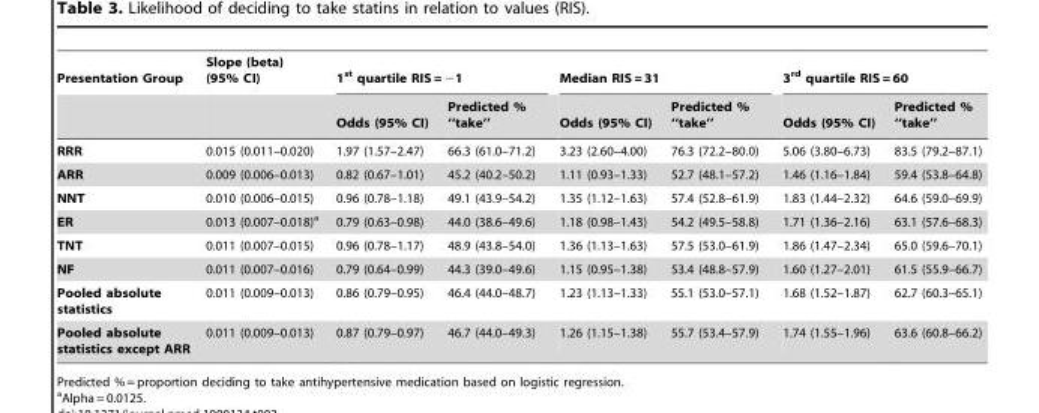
<table><thead><tr><td rowspan="2">Presentation Group</td><td rowspan="2">Slope (beta) (95% CI)</td><td colspan="2">1<sup>st</sup> quartile RIS = −1</td><td colspan="2">Median RIS = 31</td><td colspan="2">3<sup>rd</sup> quartile RIS = 60</td></tr><tr><td>Odds (95% CI)</td><td>Predicted % ‘‘take’’</td><td>Odds (95% CI)</td><td>Predicted % ‘‘take’’</td><td>Odds (95% CI)</td><td>Predicted % ‘‘take’’</td></tr></thead><tbody><tr><td>RRR</td><td>0.015 (0.011–0.020)</td><td>1.97 (1.57–2.47)</td><td>66.3 (61.0–71.2)</td><td>3.23 (2.60–4.00)</td><td>76.3 (72.2–80.0)</td><td>5.06 (3.80–6.73)</td><td>83.5 (79.2–87.1)</td></tr><tr><td>ARR</td><td>0.009 (0.006–0.013)</td><td>0.82 (0.67–1.01)</td><td>45.2 (40.2–50.2)</td><td>1.11 (0.93–1.33)</td><td>52.7 (48.1–57.2)</td><td>1.46 (1.16–1.84)</td><td>59.4 (53.8–64.8)</td></tr><tr><td>NNT</td><td>0.010 (0.006–0.015)</td><td>0.96 (0.78–1.18)</td><td>49.1 (43.9–54.2)</td><td>1.35 (1.12–1.63)</td><td>57.4 (52.8–61.9)</td><td>1.83 (1.44–2.32)</td><td>64.6 (59.0–69.9)</td></tr><tr><td>ER</td><td>0.013 (0.007–0.018)<sup>a</sup></td><td>0.79 (0.63–0.98)</td><td>44.0 (38.6–49.6)</td><td>1.18 (0.98–1.43)</td><td>54.2 (49.5–58.8)</td><td>1.71 (1.36–2.16)</td><td>63.1 (57.6–68.3)</td></tr><tr><td>TNT</td><td>0.011 (0.007–0.015)</td><td>0.96 (0.78–1.17)</td><td>48.9 (43.8–54.0)</td><td>1.36 (1.13–1.63)</td><td>57.5 (53.0–61.9)</td><td>1.86 (1.47–2.34)</td><td>65.0 (59.6–70.1)</td></tr><tr><td>NF</td><td>0.011 (0.007–0.016)</td><td>0.79 (0.64–0.99)</td><td>44.3 (39.0–49.6)</td><td>1.15 (0.95–1.38)</td><td>53.4 (48.8–57.9)</td><td>1.60 (1.27–2.01)</td><td>61.5 (55.9–66.7)</td></tr><tr><td>Pooled absolute statistics</td><td>0.011 (0.009–0.013)</td><td>0.86 (0.79–0.95)</td><td>46.4 (44.0–48.7)</td><td>1.23 (1.13–1.33)</td><td>55.1 (53.0–57.1)</td><td>1.68 (1.52–1.87)</td><td>62.7 (60.3–65.1)</td></tr><tr><td>Pooled absolute statistics except ARR</td><td>0.011 (0.009–0.013)</td><td>0.87 (0.79–0.97)</td><td>46.7 (44.0–49.3)</td><td>1.26 (1.15–1.38)</td><td>55.7 (53.4–57.9)</td><td>1.74 (1.55–1.96)</td><td>63.6 (60.8–66.2)</td></tr></tbody></table>